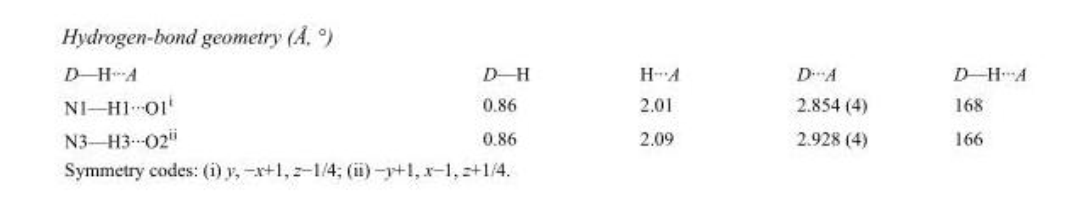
<table><tbody><tr><td>D—H···A</td><td>D—H</td><td>H···A</td><td>D···A</td><td>D—H···A</td></tr><tr><td>N1—H1···O1<sup>i</sup></td><td>0.86</td><td>2.01</td><td>2.854 (4)</td><td>168</td></tr><tr><td>N3—H3···O2<sup>ii</sup></td><td>0.86</td><td>2.09</td><td>2.928 (4)</td><td>166</td></tr></tbody></table>